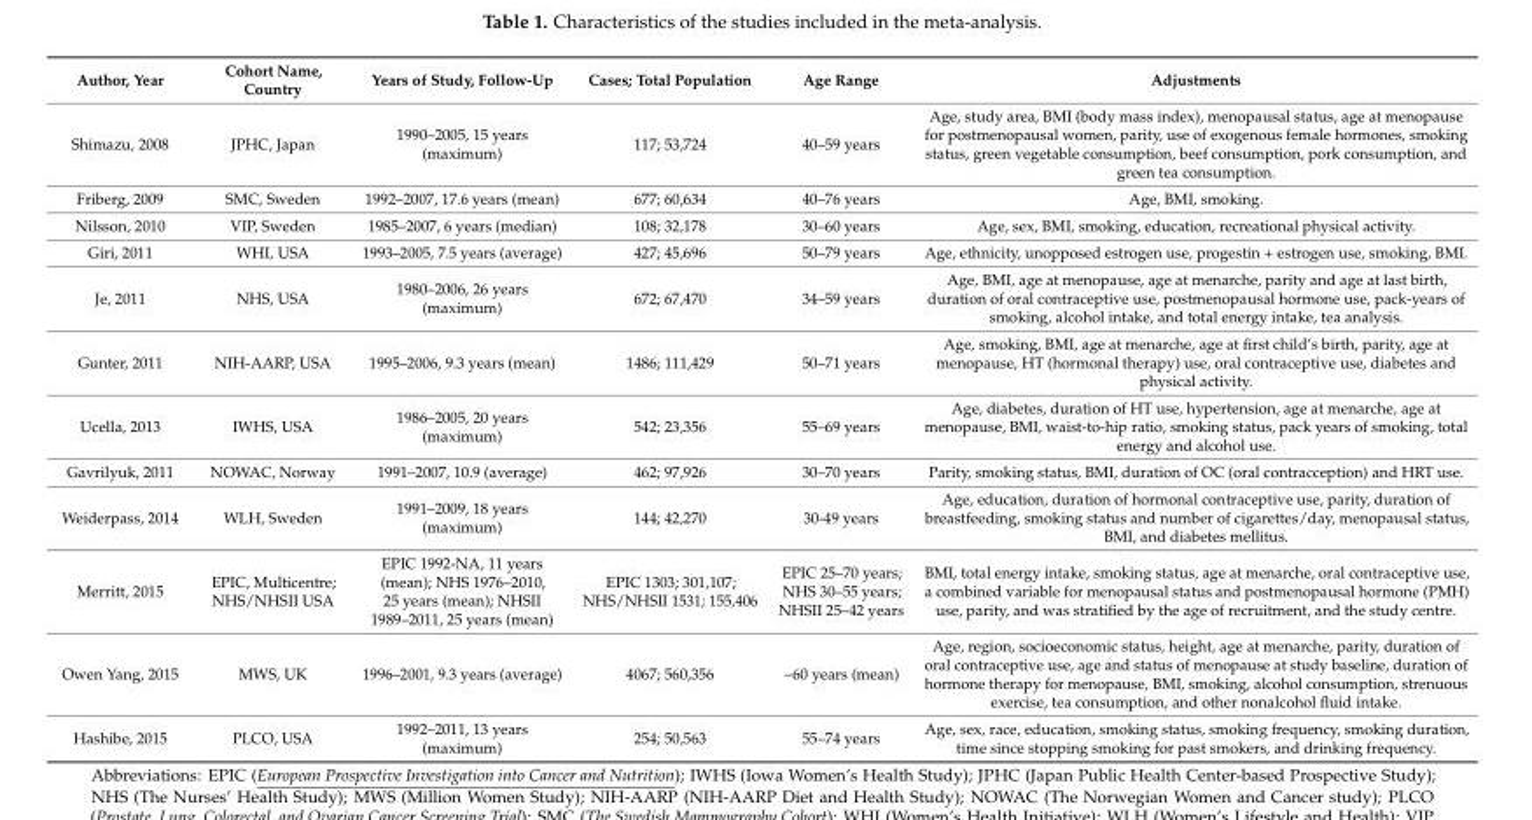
<table><thead><tr><td>Author, Year</td><td>Cohort Name, Country</td><td>Years of Study, Follow-Up</td><td>Cases; Total Population</td><td>Age Range</td><td>Adjustments</td></tr></thead><tbody><tr><td>Shimazu, 2008</td><td>JPHC, Japan</td><td>1990–2005, 15 years (maximum)</td><td>117; 53,724</td><td>40–59 years</td><td>Age, study area, BMI (body mass index), menopausal status, age at menopause for postmenopausal women, parity, use of exogenous female hormones, smoking status, green vegetable consumption, beef consumption, pork consumption, and green tea consumption.</td></tr><tr><td>Friberg, 2009</td><td>SMC, Sweden</td><td>1992–2007, 17.6 years (mean)</td><td>677; 60,634</td><td>40–76 years</td><td>Age, BMI, smoking.</td></tr><tr><td>Nilsson, 2010</td><td>VIP, Sweden</td><td>1985–2007, 6 years (median)</td><td>108; 32,178</td><td>30–60 years</td><td>Age, sex, BMI, smoking, education, recreational physical activity.</td></tr><tr><td>Giri, 2011</td><td>WHI, USA</td><td>1993–2005, 7.5 years (average)</td><td>427; 45,696</td><td>50–79 years</td><td>Age, ethnicity, unopposed estrogen use, progestin + estrogen use, smoking, BMI.</td></tr><tr><td>Je, 2011</td><td>NHS, USA</td><td>1980–2006, 26 years (maximum)</td><td>672; 67,470</td><td>34–59 years</td><td>Age, BMI, age at menopause, age at menarche, parity and age at last birth, duration of oral contraceptive use, postmenopausal hormone use, pack-years of smoking, alcohol intake, and total energy intake, tea analysis.</td></tr><tr><td>Gunter, 2011</td><td>NIH-AARP, USA</td><td>1995–2006, 9.3 years (mean)</td><td>1486; 111,429</td><td>50–71 years</td><td>Age, smoking, BMI, age at menarche, age at first child’s birth, parity, age at menopause, HT (hormonal therapy) use, oral contraceptive use, diabetes and physical activity.</td></tr><tr><td>Ucella, 2013</td><td>IWHS, USA</td><td>1986–2005, 20 years (maximum)</td><td>542; 23,356</td><td>55–69 years</td><td>Age, diabetes, duration of HT use, hypertension, age at menarche, age at menopause, BMI, waist-to-hip ratio, smoking status, pack years of smoking, total energy and alcohol use.</td></tr><tr><td>Gavrilyuk, 2011</td><td>NOWAC, Norway</td><td>1991–2007, 10.9 (average)</td><td>462; 97,926</td><td>30–70 years</td><td>Parity, smoking status, BMI, duration of OC (oral contracception) and HRT use.</td></tr><tr><td>Weiderpass, 2014</td><td>WLH, Sweden</td><td>1991–2009, 18 years (maximum)</td><td>144; 42,270</td><td>30-49 years</td><td>Age, education, duration of hormonal contraceptive use, parity, duration of breastfeeding, smoking status and number of cigarettes/day, menopausal status, BMI, and diabetes mellitus.</td></tr><tr><td>Merritt, 2015</td><td>EPIC, Multicentre; NHS/NHSII USA</td><td>EPIC 1992-NA, 11 years (mean); NHS 1976–2010, 25 years (mean); NHSII 1989–2011, 25 years (mean)</td><td>EPIC 1303; 301,107; NHS/NHSII 1531; 155,406</td><td>EPIC 25–70 years; NHS 30–55 years; NHSII 25–42 years</td><td>BMI, total energy intake, smoking status, age at menarche, oral contraceptive use, a combined variable for menopausal status and postmenopausal hormone (PMH) use, parity, and was stratified by the age of recruitment, and the study centre.</td></tr><tr><td>Owen Yang, 2015</td><td>MWS, UK</td><td>1996–2001, 9.3 years (average)</td><td>4067; 560,356</td><td>~60 years (mean)</td><td>Age, region, socioeconomic status, height, age at menarche, parity, duration of oral contraceptive use, age and status of menopause at study baseline, duration of hormone therapy for menopause, BMI, smoking, alcohol consumption, strenuous exercise, tea consumption, and other nonalcohol fluid intake.</td></tr><tr><td>Hashibe, 2015</td><td>PLCO, USA</td><td>1992–2011, 13 years (maximum)</td><td>254; 50,563</td><td>55–74 years</td><td>Age, sex, race, education, smoking status, smoking frequency, smoking duration, time since stopping smoking for past smokers, and drinking frequency.</td></tr></tbody></table>